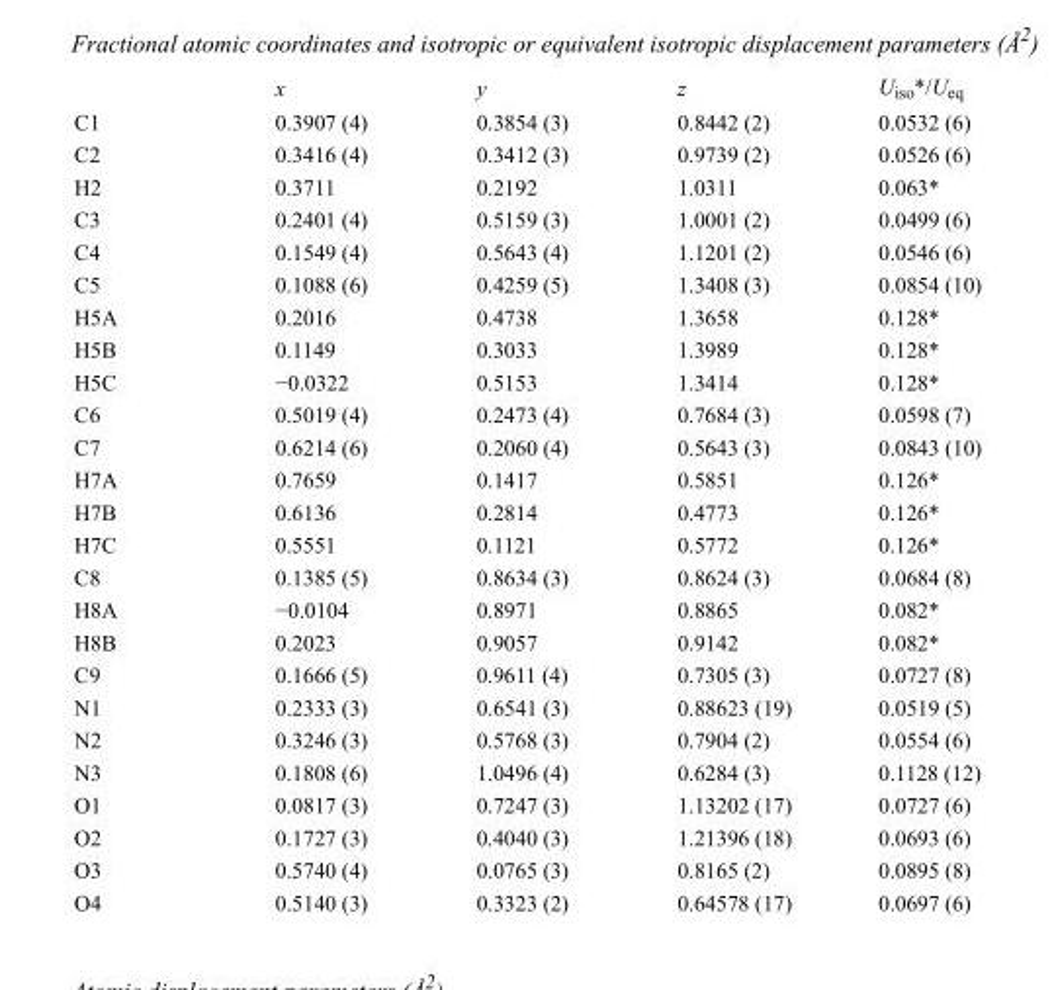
<table><thead><tr><td></td><td>x</td><td>y</td><td>z</td><td>U<sub>iso</sub>*/U<sub>eq</sub></td></tr></thead><tbody><tr><td>C1</td><td>0.3907 (4)</td><td>0.3854 (3)</td><td>0.8442 (2)</td><td>0.0532 (6)</td></tr><tr><td>C2</td><td>0.3416 (4)</td><td>0.3412 (3)</td><td>0.9739 (2)</td><td>0.0526 (6)</td></tr><tr><td>H2</td><td>0.3711</td><td>0.2192</td><td>1.0311</td><td>0.063*</td></tr><tr><td>C3</td><td>0.2401 (4)</td><td>0.5159 (3)</td><td>1.0001 (2)</td><td>0.0499 (6)</td></tr><tr><td>C4</td><td>0.1549 (4)</td><td>0.5643 (4)</td><td>1.1201 (2)</td><td>0.0546 (6)</td></tr><tr><td>C5</td><td>0.1088 (6)</td><td>0.4259 (5)</td><td>1.3408 (3)</td><td>0.0854 (10)</td></tr><tr><td>H5A</td><td>0.2016</td><td>0.4738</td><td>1.3658</td><td>0.128*</td></tr><tr><td>H5B</td><td>0.1149</td><td>0.3033</td><td>1.3989</td><td>0.128*</td></tr><tr><td>H5C</td><td>−0.0322</td><td>0.5153</td><td>1.3414</td><td>0.128*</td></tr><tr><td>C6</td><td>0.5019 (4)</td><td>0.2473 (4)</td><td>0.7684 (3)</td><td>0.0598 (7)</td></tr><tr><td>C7</td><td>0.6214 (6)</td><td>0.2060 (4)</td><td>0.5643 (3)</td><td>0.0843 (10)</td></tr><tr><td>H7A</td><td>0.7659</td><td>0.1417</td><td>0.5851</td><td>0.126*</td></tr><tr><td>H7B</td><td>0.6136</td><td>0.2814</td><td>0.4773</td><td>0.126*</td></tr><tr><td>H7C</td><td>0.5551</td><td>0.1121</td><td>0.5772</td><td>0.126*</td></tr><tr><td>C8</td><td>0.1385 (5)</td><td>0.8634 (3)</td><td>0.8624 (3)</td><td>0.0684 (8)</td></tr><tr><td>H8A</td><td>−0.0104</td><td>0.8971</td><td>0.8865</td><td>0.082*</td></tr><tr><td>H8B</td><td>0.2023</td><td>0.9057</td><td>0.9142</td><td>0.082*</td></tr><tr><td>C9</td><td>0.1666 (5)</td><td>0.9611 (4)</td><td>0.7305 (3)</td><td>0.0727 (8)</td></tr><tr><td>N1</td><td>0.2333 (3)</td><td>0.6541 (3)</td><td>0.88623 (19)</td><td>0.0519 (5)</td></tr><tr><td>N2</td><td>0.3246 (3)</td><td>0.5768 (3)</td><td>0.7904 (2)</td><td>0.0554 (6)</td></tr><tr><td>N3</td><td>0.1808 (6)</td><td>1.0496 (4)</td><td>0.6284 (3)</td><td>0.1128 (12)</td></tr><tr><td>O1</td><td>0.0817 (3)</td><td>0.7247 (3)</td><td>1.13202 (17)</td><td>0.0727 (6)</td></tr><tr><td>O2</td><td>0.1727 (3)</td><td>0.4040 (3)</td><td>1.21396 (18)</td><td>0.0693 (6)</td></tr><tr><td>O3</td><td>0.5740 (4)</td><td>0.0765 (3)</td><td>0.8165 (2)</td><td>0.0895 (8)</td></tr><tr><td>O4</td><td>0.5140 (3)</td><td>0.3323 (2)</td><td>0.64578 (17)</td><td>0.0697 (6)</td></tr></tbody></table>